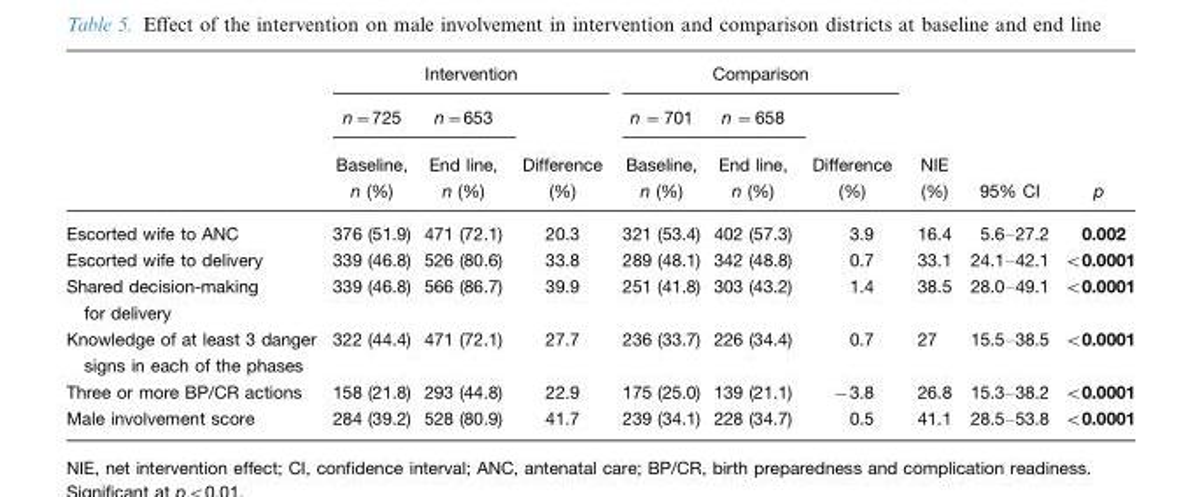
<table><thead><tr><td rowspan="3"></td><td colspan="3">Intervention</td><td colspan="3">Comparison</td><td rowspan="3">NIE (%)</td><td rowspan="3">95% CI</td><td rowspan="3">p</td></tr><tr><td rowspan="2">n=725 Baseline, n (%)</td><td rowspan="2">n=653 End line, n (%)</td><td rowspan="2">Difference (%)</td><td rowspan="2">n =701 Baseline, n (%)</td><td rowspan="2">n =658 End line, n (%)</td><td rowspan="2">Difference (%)</td></tr><tr></tr></thead><tbody><tr><td>Escorted wife to ANC</td><td>376 (51.9)</td><td>471 (72.1)</td><td>20.3</td><td>321 (53.4)</td><td>402 (57.3)</td><td>3.9</td><td>16.4</td><td>5.6–27.2</td><td>0.002</td></tr><tr><td>Escorted wife to delivery</td><td>339 (46.8)</td><td>526 (80.6)</td><td>33.8</td><td>289 (48.1)</td><td>342 (48.8)</td><td>0.7</td><td>33.1</td><td>24.1–42.1</td><td>&lt;0.0001</td></tr><tr><td>Shared decision-making for delivery</td><td>339 (46.8)</td><td>566 (86.7)</td><td>39.9</td><td>251 (41.8)</td><td>303 (43.2)</td><td>1.4</td><td>38.5</td><td>28.0–49.1</td><td>&lt;0.0001</td></tr><tr><td>Knowledge of at least 3 danger signs in each of the phases</td><td>322 (44.4)</td><td>471 (72.1)</td><td>27.7</td><td>236 (33.7)</td><td>226 (34.4)</td><td>0.7</td><td>27</td><td>15.5–38.5</td><td>&lt;0.0001</td></tr><tr><td>Three or more BP/CR actions</td><td>158 (21.8)</td><td>293 (44.8)</td><td>22.9</td><td>175 (25.0)</td><td>139 (21.1)</td><td>−3.8</td><td>26.8</td><td>15.3–38.2</td><td>&lt;0.0001</td></tr><tr><td>Male involvement score</td><td>284 (39.2)</td><td>528 (80.9)</td><td>41.7</td><td>239 (34.1)</td><td>228 (34.7)</td><td>0.5</td><td>41.1</td><td>28.5–53.8</td><td>&lt;0.0001</td></tr></tbody></table>